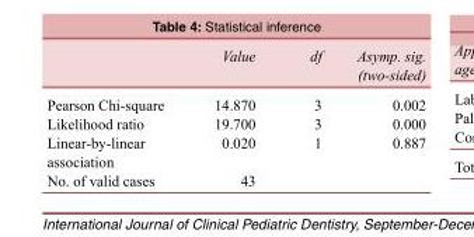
<table><thead><tr><td></td><td>Value</td><td>df</td><td>Asymp. sig. (two-sided)</td></tr></thead><tbody><tr><td>Pearson Chi-square</td><td>14.870</td><td>3</td><td>0.002</td></tr><tr><td>Likelihood ratio</td><td>19.700</td><td>3</td><td>0.000</td></tr><tr><td>Linear-by-linear</td><td>0.020</td><td>1</td><td>0.887</td></tr><tr><td colspan="4">association</td></tr><tr><td>No. of valid cases</td><td>43</td><td></td><td></td></tr></tbody></table>